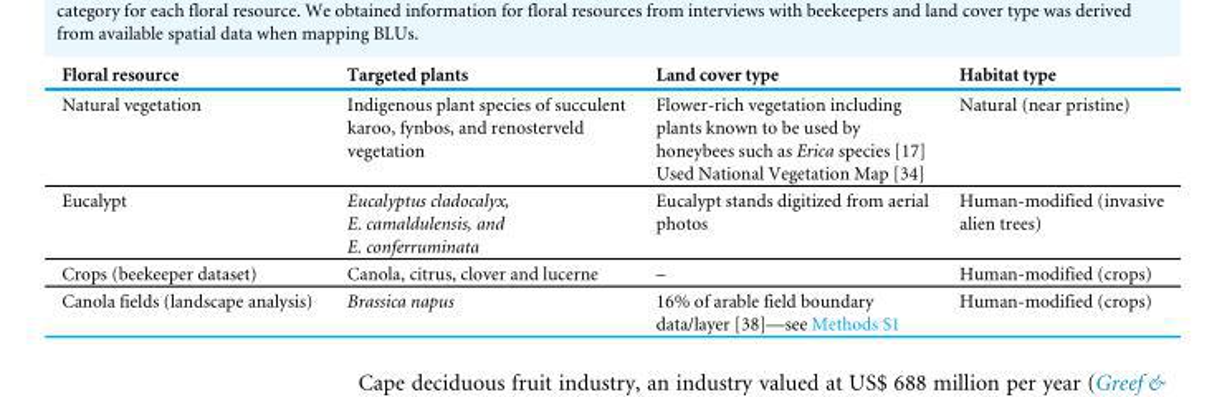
<table><thead><tr><td>Floral resource</td><td>Targeted plants</td><td>Land cover type</td><td>Habitat type</td></tr></thead><tbody><tr><td>Natural vegetation</td><td>Indigenous plant species of succulent karoo, fynbos, and renosterveld vegetation</td><td>Flower-rich vegetation including plants known to be used by honeybees such as Erica species [17] Used National Vegetation Map [34]</td><td>Natural (near pristine)</td></tr><tr><td>Eucalypt</td><td>Eucalyptus cladocalyx, E. camaldulensis, and E. conferruminata</td><td>Eucalypt stands digitized from aerial photos</td><td>Human-modified (invasive alien trees)</td></tr><tr><td>Crops (beekeeper dataset)</td><td>Canola, citrus, clover and lucerne</td><td>–</td><td>Human-modified (crops)</td></tr><tr><td>Canola fields (landscape analysis)</td><td>Brassica napus</td><td>16% of arable field boundary data/layer [38]—see Methods S1</td><td>Human-modified (crops)</td></tr></tbody></table>